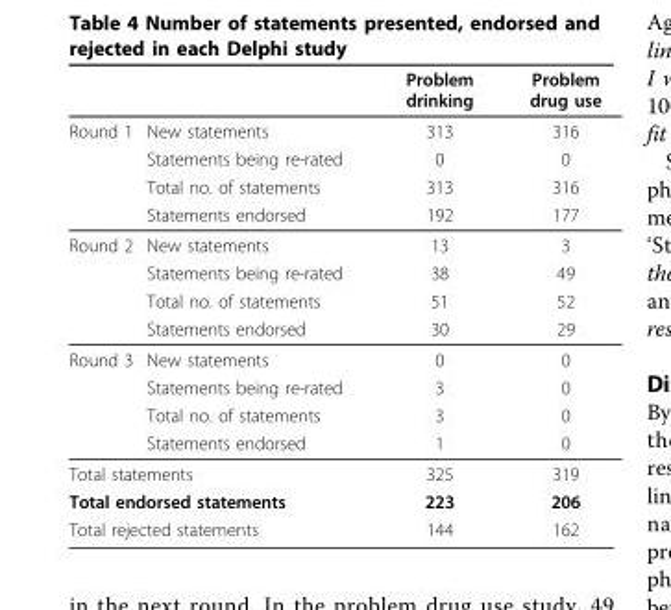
<table><thead><tr><td></td><td></td><td>Problem drinking</td><td>Problem drug use</td></tr></thead><tbody><tr><td rowspan="4">Round 1</td><td>New statements</td><td>313</td><td>316</td></tr><tr><td>Statements being re-rated</td><td>0</td><td>0</td></tr><tr><td>Total no. of statements</td><td>313</td><td>316</td></tr><tr><td>Statements endorsed</td><td>192</td><td>177</td></tr><tr><td rowspan="4">Round 2</td><td>New statements</td><td>13</td><td>3</td></tr><tr><td>Statements being re-rated</td><td>38</td><td>49</td></tr><tr><td>Total no. of statements</td><td>51</td><td>52</td></tr><tr><td>Statements endorsed</td><td>30</td><td>29</td></tr><tr><td rowspan="4">Round 3</td><td>New statements</td><td>0</td><td>0</td></tr><tr><td>Statements being re-rated</td><td>3</td><td>0</td></tr><tr><td>Total no. of statements</td><td>3</td><td>0</td></tr><tr><td>Statements endorsed</td><td>1</td><td>0</td></tr><tr><td colspan="2">Total statements</td><td>325</td><td>319</td></tr><tr><td colspan="2">Total endorsed statements</td><td>223</td><td>206</td></tr><tr><td colspan="2">Total rejected statements</td><td>144</td><td>162</td></tr></tbody></table>